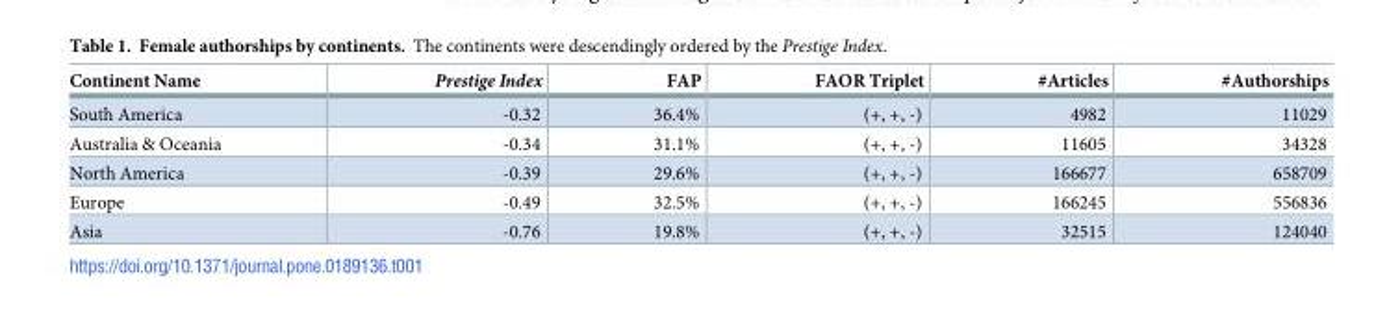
<table><thead><tr><td>Continent Name</td><td>Prestige Index</td><td>FAP</td><td>FAOR Triplet</td><td>#Articles</td><td>#Authorships</td></tr></thead><tbody><tr><td>South America</td><td>-0.32</td><td>36.4%</td><td>(+, +, -)</td><td>4982</td><td>11029</td></tr><tr><td>Australia &amp; Oceania</td><td>-0.34</td><td>31.1%</td><td>(+, +, -)</td><td>11605</td><td>34328</td></tr><tr><td>North America</td><td>-0.39</td><td>29.6%</td><td>(+, +, -)</td><td>166677</td><td>658709</td></tr><tr><td>Europe</td><td>-0.49</td><td>32.5%</td><td>(+, +, -)</td><td>166245</td><td>556836</td></tr><tr><td>Asia</td><td>-0.76</td><td>19.8%</td><td>(+, +, -)</td><td>32515</td><td>124040</td></tr></tbody></table>